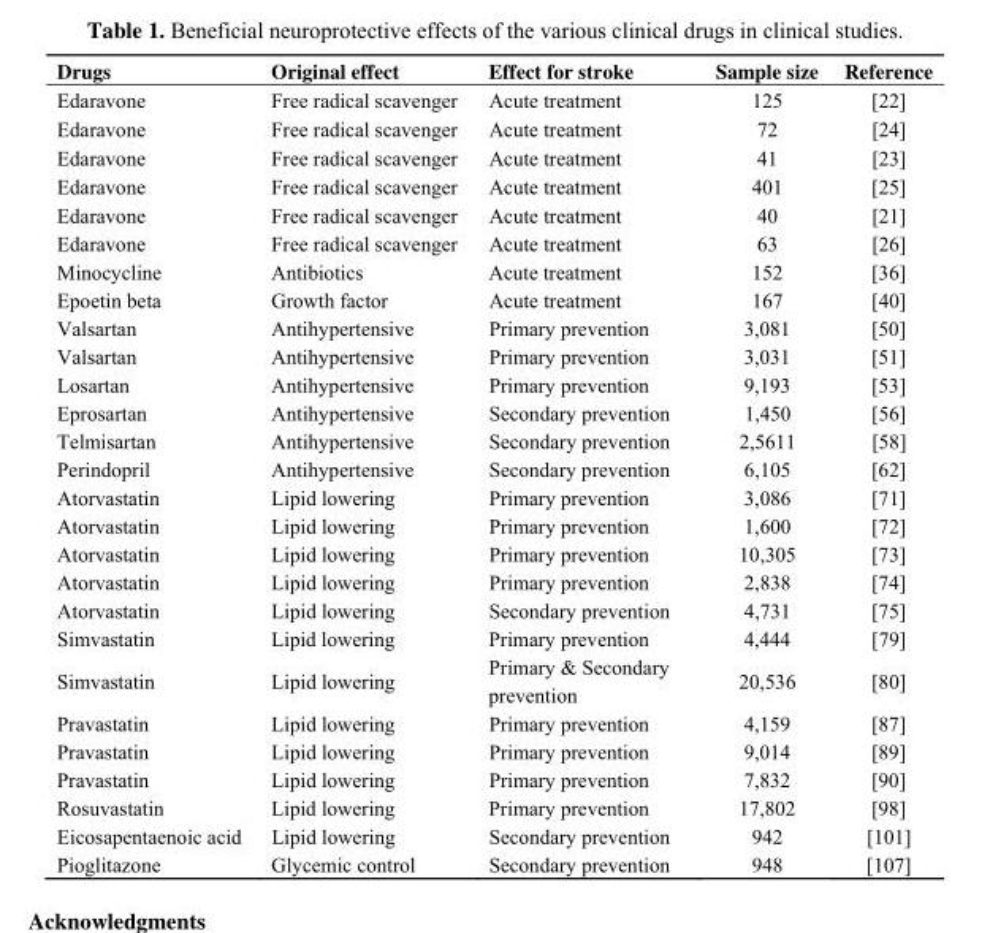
<table><thead><tr><td>Drugs</td><td>Original effect</td><td>Effect for stroke</td><td>Sample size</td><td>Reference</td></tr></thead><tbody><tr><td>Edaravone</td><td>Free radical scavenger</td><td>Acute treatment</td><td>125</td><td>[22]</td></tr><tr><td>Edaravone</td><td>Free radical scavenger</td><td>Acute treatment</td><td>72</td><td>[24]</td></tr><tr><td>Edaravone</td><td>Free radical scavenger</td><td>Acute treatment</td><td>41</td><td>[23]</td></tr><tr><td>Edaravone</td><td>Free radical scavenger</td><td>Acute treatment</td><td>401</td><td>[25]</td></tr><tr><td>Edaravone</td><td>Free radical scavenger</td><td>Acute treatment</td><td>40</td><td>[21]</td></tr><tr><td>Edaravone</td><td>Free radical scavenger</td><td>Acute treatment</td><td>63</td><td>[26]</td></tr><tr><td>Minocycline</td><td>Antibiotics</td><td>Acute treatment</td><td>152</td><td>[36]</td></tr><tr><td>Epoetin beta</td><td>Growth factor</td><td>Acute treatment</td><td>167</td><td>[40]</td></tr><tr><td>Valsartan</td><td>Antihypertensive</td><td>Primary prevention</td><td>3,081</td><td>[50]</td></tr><tr><td>Valsartan</td><td>Antihypertensive</td><td>Primary prevention</td><td>3,031</td><td>[51]</td></tr><tr><td>Losartan</td><td>Antihypertensive</td><td>Primary prevention</td><td>9,193</td><td>[53]</td></tr><tr><td>Eprosartan</td><td>Antihypertensive</td><td>Secondary prevention</td><td>1,450</td><td>[56]</td></tr><tr><td>Telmisartan</td><td>Antihypertensive</td><td>Secondary prevention</td><td>2,5611</td><td>[58]</td></tr><tr><td>Perindopril</td><td>Antihypertensive</td><td>Secondary prevention</td><td>6,105</td><td>[62]</td></tr><tr><td>Atorvastatin</td><td>Lipid lowering</td><td>Primary prevention</td><td>3,086</td><td>[71]</td></tr><tr><td>Atorvastatin</td><td>Lipid lowering</td><td>Primary prevention</td><td>1,600</td><td>[72]</td></tr><tr><td>Atorvastatin</td><td>Lipid lowering</td><td>Primary prevention</td><td>10,305</td><td>[73]</td></tr><tr><td>Atorvastatin</td><td>Lipid lowering</td><td>Primary prevention</td><td>2,838</td><td>[74]</td></tr><tr><td>Atorvastatin</td><td>Lipid lowering</td><td>Secondary prevention</td><td>4,731</td><td>[75]</td></tr><tr><td>Simvastatin</td><td>Lipid lowering</td><td>Primary prevention</td><td>4,444</td><td>[79]</td></tr><tr><td>Simvastatin</td><td>Lipid lowering</td><td>Primary &amp; Secondary prevention</td><td>20,536</td><td>[80]</td></tr><tr><td>Pravastatin</td><td>Lipid lowering</td><td>Primary prevention</td><td>4,159</td><td>[87]</td></tr><tr><td>Pravastatin</td><td>Lipid lowering</td><td>Primary prevention</td><td>9,014</td><td>[89]</td></tr><tr><td>Pravastatin</td><td>Lipid lowering</td><td>Primary prevention</td><td>7,832</td><td>[90]</td></tr><tr><td>Rosuvastatin</td><td>Lipid lowering</td><td>Primary prevention</td><td>17,802</td><td>[98]</td></tr><tr><td>Eicosapentaenoic acid</td><td>Lipid lowering</td><td>Secondary prevention</td><td>942</td><td>[101]</td></tr><tr><td>Pioglitazone</td><td>Glycemic control</td><td>Secondary prevention</td><td>948</td><td>[107]</td></tr></tbody></table>